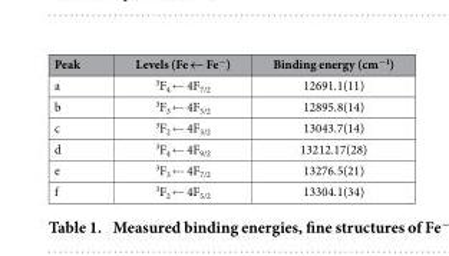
<table><thead><tr><td>Peak</td><td>Levels (Fe ← Fe<sup>−</sup>)</td><td>Binding energy (cm<sup>−1</sup>)</td></tr></thead><tbody><tr><td>a</td><td><sup>3</sup>F<sub>4</sub> ← 4F<sub>7/2</sub></td><td>12691.1(11)</td></tr><tr><td>b</td><td><sup>3</sup>F<sub>3</sub> ← 4F<sub>5/2</sub></td><td>12895.8(14)</td></tr><tr><td>c</td><td><sup>3</sup>F<sub>2</sub> ← 4F<sub>3/2</sub></td><td>13043.7(14)</td></tr><tr><td>d</td><td><sup>3</sup>F<sub>4</sub> ← 4F<sub>9/2</sub></td><td>13212.17(28)</td></tr><tr><td>e</td><td><sup>3</sup>F<sub>3</sub> ← 4F<sub>7/2</sub></td><td>13276.5(21)</td></tr><tr><td>f</td><td><sup>3</sup>F<sub>2</sub> ← 4F<sub>5/2</sub></td><td>13304.1(34)</td></tr></tbody></table>